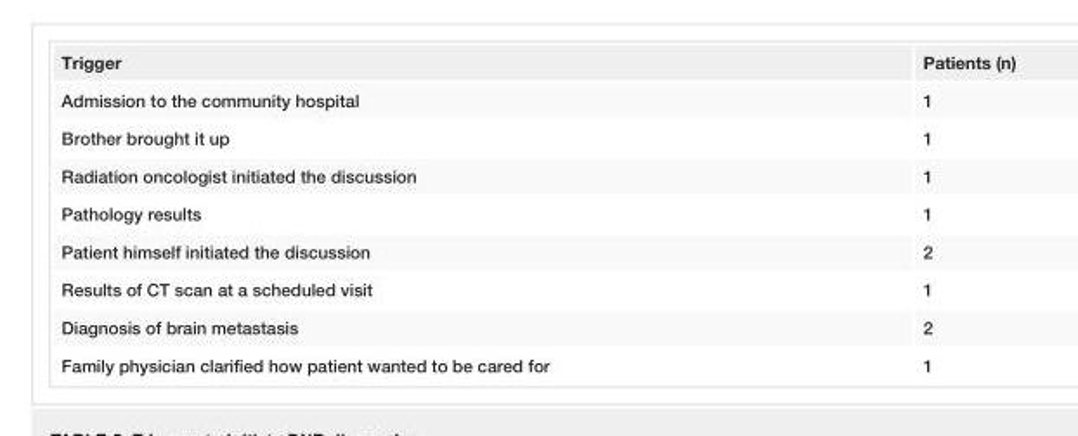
<table><tbody><tr><td>Trigger</td><td>Patients (n)</td></tr><tr><td>Admission to the community hospital</td><td>1</td></tr><tr><td>Brother brought it up</td><td>1</td></tr><tr><td>Radiation oncologist initiated the discussion</td><td>1</td></tr><tr><td>Pathology results</td><td>1</td></tr><tr><td>Patient himself initiated the discussion</td><td>2</td></tr><tr><td>Results of CT scan at a scheduled visit</td><td>1</td></tr><tr><td>Diagnosis of brain metastasis</td><td>2</td></tr><tr><td>Family physician clarified how patient wanted to be cared for</td><td>1</td></tr></tbody></table>